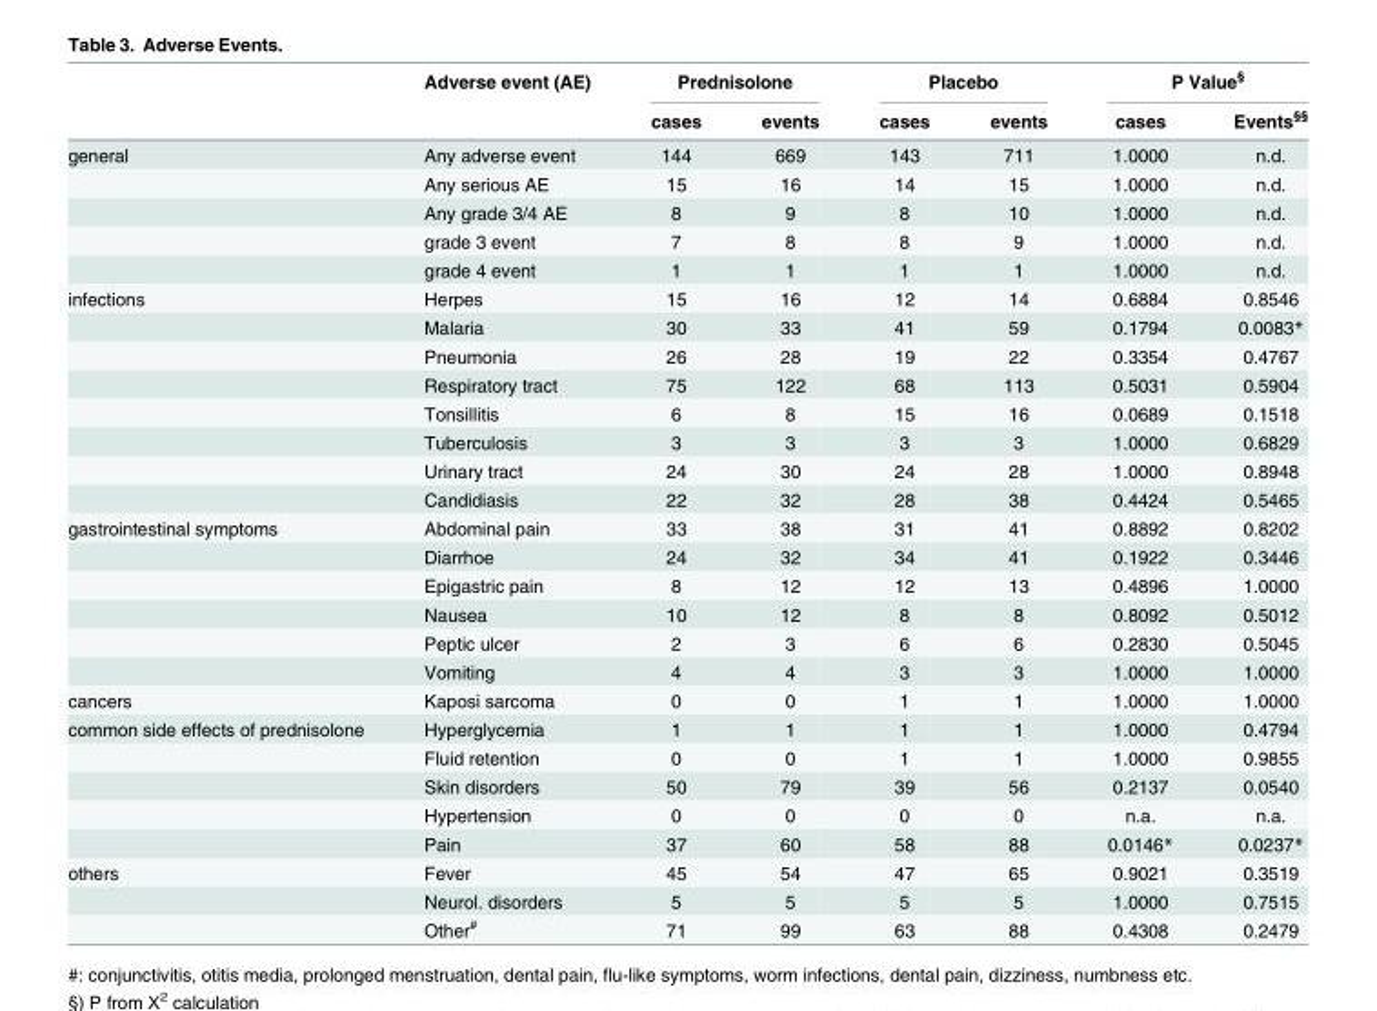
<table><thead><tr><td rowspan="2"></td><td rowspan="2">Adverse event (AE)</td><td colspan="2">Prednisolone</td><td colspan="2">Placebo</td><td colspan="2">P Value<sup>§</sup></td></tr><tr><td>cases</td><td>events</td><td>cases</td><td>events</td><td>cases</td><td>Events<sup>§§</sup></td></tr></thead><tbody><tr><td rowspan="5">general</td><td>Any adverse event</td><td>144</td><td>669</td><td>143</td><td>711</td><td>1.0000</td><td>n.d.</td></tr><tr><td>Any serious AE</td><td>15</td><td>16</td><td>14</td><td>15</td><td>1.0000</td><td>n.d.</td></tr><tr><td>Any grade 3/4 AE</td><td>8</td><td>9</td><td>8</td><td>10</td><td>1.0000</td><td>n.d.</td></tr><tr><td>grade 3 event</td><td>7</td><td>8</td><td>8</td><td>9</td><td>1.0000</td><td>n.d.</td></tr><tr><td>grade 4 event</td><td>1</td><td>1</td><td>1</td><td>1</td><td>1.0000</td><td>n.d.</td></tr><tr><td rowspan="8">infections</td><td>Herpes</td><td>15</td><td>16</td><td>12</td><td>14</td><td>0.6884</td><td>0.8546</td></tr><tr><td>Malaria</td><td>30</td><td>33</td><td>41</td><td>59</td><td>0.1794</td><td>0.0083*</td></tr><tr><td>Pneumonia</td><td>26</td><td>28</td><td>19</td><td>22</td><td>0.3354</td><td>0.4767</td></tr><tr><td>Respiratory tract</td><td>75</td><td>122</td><td>68</td><td>113</td><td>0.5031</td><td>0.5904</td></tr><tr><td>Tonsillitis</td><td>6</td><td>8</td><td>15</td><td>16</td><td>0.0689</td><td>0.1518</td></tr><tr><td>Tuberculosis</td><td>3</td><td>3</td><td>3</td><td>3</td><td>1.0000</td><td>0.6829</td></tr><tr><td>Urinary tract</td><td>24</td><td>30</td><td>24</td><td>28</td><td>1.0000</td><td>0.8948</td></tr><tr><td>Candidiasis</td><td>22</td><td>32</td><td>28</td><td>38</td><td>0.4424</td><td>0.5465</td></tr><tr><td rowspan="6">gastrointestinal symptoms</td><td>Abdominal pain</td><td>33</td><td>38</td><td>31</td><td>41</td><td>0.8892</td><td>0.8202</td></tr><tr><td>Diarrhoe</td><td>24</td><td>32</td><td>34</td><td>41</td><td>0.1922</td><td>0.3446</td></tr><tr><td>Epigastric pain</td><td>8</td><td>12</td><td>12</td><td>13</td><td>0.4896</td><td>1.0000</td></tr><tr><td>Nausea</td><td>10</td><td>12</td><td>8</td><td>8</td><td>0.8092</td><td>0.5012</td></tr><tr><td>Peptic ulcer</td><td>2</td><td>3</td><td>6</td><td>6</td><td>0.2830</td><td>0.5045</td></tr><tr><td>Vomiting</td><td>4</td><td>4</td><td>3</td><td>3</td><td>1.0000</td><td>1.0000</td></tr><tr><td>cancers</td><td>Kaposi sarcoma</td><td>0</td><td>0</td><td>1</td><td>1</td><td>1.0000</td><td>1.0000</td></tr><tr><td rowspan="5">common side effects of prednisolone</td><td>Hyperglycemia</td><td>1</td><td>1</td><td>1</td><td>1</td><td>1.0000</td><td>0.4794</td></tr><tr><td>Fluid retention</td><td>0</td><td>0</td><td>1</td><td>1</td><td>1.0000</td><td>0.9855</td></tr><tr><td>Skin disorders</td><td>50</td><td>79</td><td>39</td><td>56</td><td>0.2137</td><td>0.0540</td></tr><tr><td>Hypertension</td><td>0</td><td>0</td><td>0</td><td>0</td><td>n.a.</td><td>n.a.</td></tr><tr><td>Pain</td><td>37</td><td>60</td><td>58</td><td>88</td><td>0.0146*</td><td>0.0237*</td></tr><tr><td rowspan="3">others</td><td>Fever</td><td>45</td><td>54</td><td>47</td><td>65</td><td>0.9021</td><td>0.3519</td></tr><tr><td>Neurol. disorders</td><td>5</td><td>5</td><td>5</td><td>5</td><td>1.0000</td><td>0.7515</td></tr><tr><td>Other<sup>#</sup></td><td>71</td><td>99</td><td>63</td><td>88</td><td>0.4308</td><td>0.2479</td></tr></tbody></table>